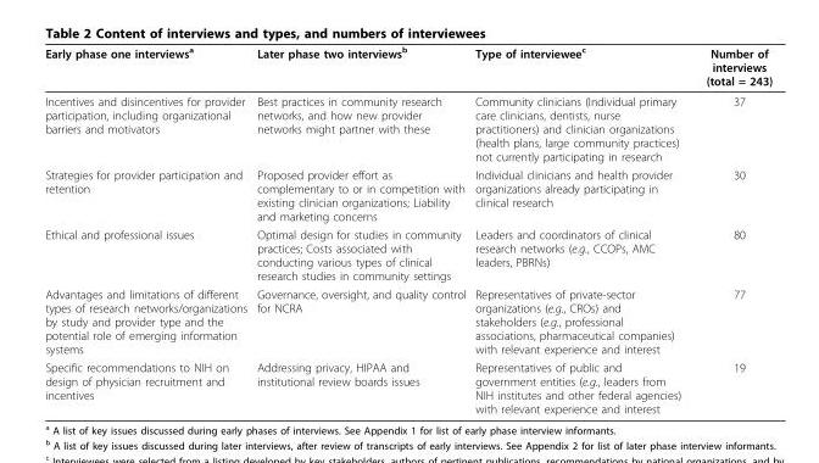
<table><thead><tr><td>Early phase one interviews<sup>a</sup></td><td>Later phase two interviews<sup>b</sup></td><td>Type of interviewee<sup>c</sup></td><td>Number of interviews (total = 243)</td></tr></thead><tbody><tr><td>Incentives and disincentives for provider participation, including organizational barriers and motivators</td><td>Best practices in community research networks, and how new provider networks might partner with these</td><td>Community clinicians (Individual primary care clinicians, dentists, nurse practitioners) and clinician organizations (health plans, large community practices) not currently participating in research</td><td>37</td></tr><tr><td>Strategies for provider participation and retention</td><td>Proposed provider effort as complementary to or in competition with existing clinician organizations; Liability and marketing concerns</td><td>Individual clinicians and health provider organizations already participating in clinical research</td><td>30</td></tr><tr><td>Ethical and professional issues</td><td>Optimal design for studies in community practices; Costs associated with conducting various types of clinical research studies in community settings</td><td>Leaders and coordinators of clinical research networks (e.g., CCOPs, AMC leaders, PBRNs)</td><td>80</td></tr><tr><td>Advantages and limitations of different types of research networks/organizations by study and provider type and the potential role of emerging information systems</td><td>Governance, oversight, and quality control for NCRA</td><td>Representatives of private-sector organizations (e.g., CROs) and stakeholders (e.g., professional associations, pharmaceutical companies) with relevant experience and interest</td><td>77</td></tr><tr><td>Specific recommendations to NIH on design of physician recruitment and incentives</td><td>Addressing privacy, HIPAA and institutional review boards issues</td><td>Representatives of public and government entities (e.g., leaders from NIH institutes and other federal agencies) with relevant experience and interest</td><td>19</td></tr></tbody></table>